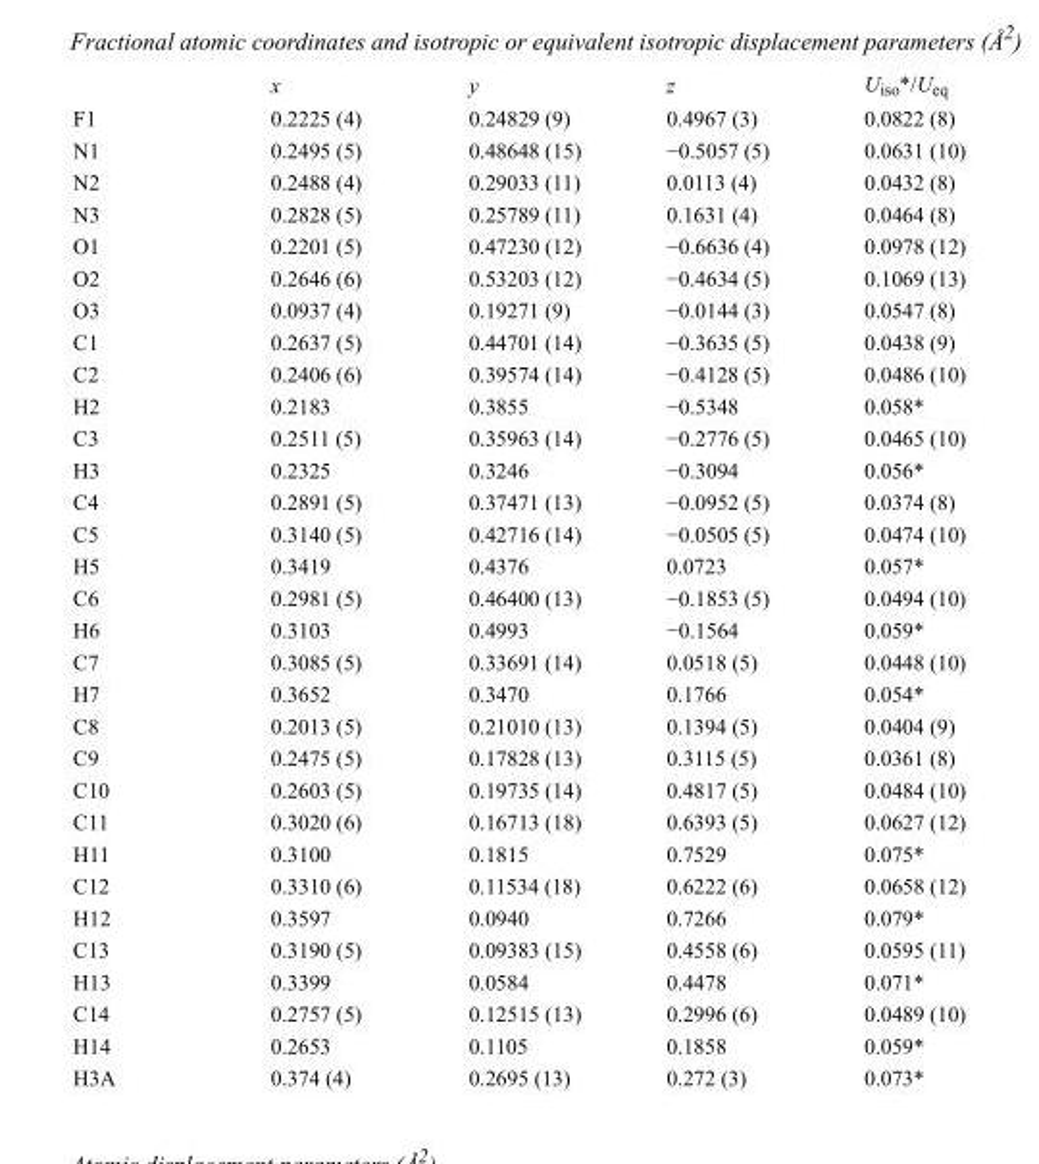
<table><thead><tr><td></td><td>x</td><td>y</td><td>z</td><td>U<sub>iso</sub>*/U<sub>eq</sub></td></tr></thead><tbody><tr><td>F1</td><td>0.2225 (4)</td><td>0.24829 (9)</td><td>0.4967 (3)</td><td>0.0822 (8)</td></tr><tr><td>N1</td><td>0.2495 (5)</td><td>0.48648 (15)</td><td>−0.5057 (5)</td><td>0.0631 (10)</td></tr><tr><td>N2</td><td>0.2488 (4)</td><td>0.29033 (11)</td><td>0.0113 (4)</td><td>0.0432 (8)</td></tr><tr><td>N3</td><td>0.2828 (5)</td><td>0.25789 (11)</td><td>0.1631 (4)</td><td>0.0464 (8)</td></tr><tr><td>O1</td><td>0.2201 (5)</td><td>0.47230 (12)</td><td>−0.6636 (4)</td><td>0.0978 (12)</td></tr><tr><td>O2</td><td>0.2646 (6)</td><td>0.53203 (12)</td><td>−0.4634 (5)</td><td>0.1069 (13)</td></tr><tr><td>O3</td><td>0.0937 (4)</td><td>0.19271 (9)</td><td>−0.0144 (3)</td><td>0.0547 (8)</td></tr><tr><td>C1</td><td>0.2637 (5)</td><td>0.44701 (14)</td><td>−0.3635 (5)</td><td>0.0438 (9)</td></tr><tr><td>C2</td><td>0.2406 (6)</td><td>0.39574 (14)</td><td>−0.4128 (5)</td><td>0.0486 (10)</td></tr><tr><td>H2</td><td>0.2183</td><td>0.3855</td><td>−0.5348</td><td>0.058*</td></tr><tr><td>C3</td><td>0.2511 (5)</td><td>0.35963 (14)</td><td>−0.2776 (5)</td><td>0.0465 (10)</td></tr><tr><td>H3</td><td>0.2325</td><td>0.3246</td><td>−0.3094</td><td>0.056*</td></tr><tr><td>C4</td><td>0.2891 (5)</td><td>0.37471 (13)</td><td>−0.0952 (5)</td><td>0.0374 (8)</td></tr><tr><td>C5</td><td>0.3140 (5)</td><td>0.42716 (14)</td><td>−0.0505 (5)</td><td>0.0474 (10)</td></tr><tr><td>H5</td><td>0.3419</td><td>0.4376</td><td>0.0723</td><td>0.057*</td></tr><tr><td>C6</td><td>0.2981 (5)</td><td>0.46400 (13)</td><td>−0.1853 (5)</td><td>0.0494 (10)</td></tr><tr><td>H6</td><td>0.3103</td><td>0.4993</td><td>−0.1564</td><td>0.059*</td></tr><tr><td>C7</td><td>0.3085 (5)</td><td>0.33691 (14)</td><td>0.0518 (5)</td><td>0.0448 (10)</td></tr><tr><td>H7</td><td>0.3652</td><td>0.3470</td><td>0.1766</td><td>0.054*</td></tr><tr><td>C8</td><td>0.2013 (5)</td><td>0.21010 (13)</td><td>0.1394 (5)</td><td>0.0404 (9)</td></tr><tr><td>C9</td><td>0.2475 (5)</td><td>0.17828 (13)</td><td>0.3115 (5)</td><td>0.0361 (8)</td></tr><tr><td>C10</td><td>0.2603 (5)</td><td>0.19735 (14)</td><td>0.4817 (5)</td><td>0.0484 (10)</td></tr><tr><td>C11</td><td>0.3020 (6)</td><td>0.16713 (18)</td><td>0.6393 (5)</td><td>0.0627 (12)</td></tr><tr><td>H11</td><td>0.3100</td><td>0.1815</td><td>0.7529</td><td>0.075*</td></tr><tr><td>C12</td><td>0.3310 (6)</td><td>0.11534 (18)</td><td>0.6222 (6)</td><td>0.0658 (12)</td></tr><tr><td>H12</td><td>0.3597</td><td>0.0940</td><td>0.7266</td><td>0.079*</td></tr><tr><td>C13</td><td>0.3190 (5)</td><td>0.09383 (15)</td><td>0.4558 (6)</td><td>0.0595 (11)</td></tr><tr><td>H13</td><td>0.3399</td><td>0.0584</td><td>0.4478</td><td>0.071*</td></tr><tr><td>C14</td><td>0.2757 (5)</td><td>0.12515 (13)</td><td>0.2996 (6)</td><td>0.0489 (10)</td></tr><tr><td>H14</td><td>0.2653</td><td>0.1105</td><td>0.1858</td><td>0.059*</td></tr><tr><td>H3A</td><td>0.374 (4)</td><td>0.2695 (13)</td><td>0.272 (3)</td><td>0.073*</td></tr></tbody></table>